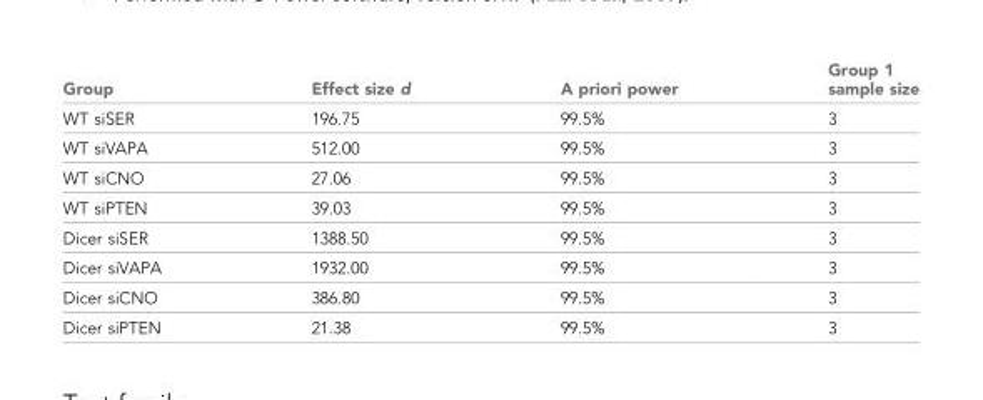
<table><thead><tr><td>Group</td><td>Effect size d</td><td>A priori power</td><td>Group 1 sample size</td></tr></thead><tbody><tr><td>WT siSER</td><td>196.75</td><td>99.5%</td><td>3</td></tr><tr><td>WT siVAPA</td><td>512.00</td><td>99.5%</td><td>3</td></tr><tr><td>WT siCNO</td><td>27.06</td><td>99.5%</td><td>3</td></tr><tr><td>WT siPTEN</td><td>39.03</td><td>99.5%</td><td>3</td></tr><tr><td>Dicer siSER</td><td>1388.50</td><td>99.5%</td><td>3</td></tr><tr><td>Dicer siVAPA</td><td>1932.00</td><td>99.5%</td><td>3</td></tr><tr><td>Dicer siCNO</td><td>386.80</td><td>99.5%</td><td>3</td></tr><tr><td>Dicer siPTEN</td><td>21.38</td><td>99.5%</td><td>3</td></tr></tbody></table>